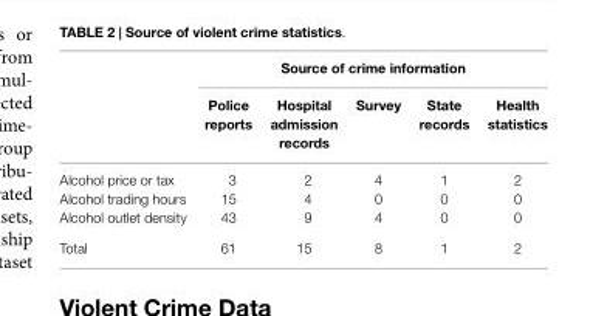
<table><thead><tr><td rowspan="2"></td><td colspan="5">Source of crime information</td></tr><tr><td>Police reports</td><td>Hospital admission records</td><td>Survey</td><td>State records</td><td>Health statistics</td></tr></thead><tbody><tr><td>Alcohol price or tax</td><td>3</td><td>2</td><td>4</td><td>1</td><td>2</td></tr><tr><td>Alcohol trading hours</td><td>15</td><td>4</td><td>0</td><td>0</td><td>0</td></tr><tr><td>Alcohol outlet density</td><td>43</td><td>9</td><td>4</td><td>0</td><td>0</td></tr><tr><td>Total</td><td>61</td><td>15</td><td>8</td><td>1</td><td>2</td></tr></tbody></table>